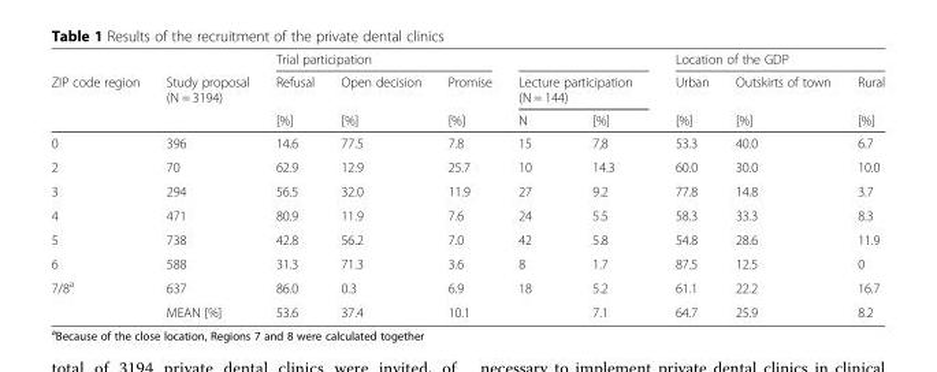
<table><thead><tr><td rowspan="3">ZIP code region</td><td rowspan="3">Study proposal (N = 3194)</td><td colspan="3">Trial participation</td><td></td><td></td><td colspan="3">Location of the GDP</td></tr><tr><td rowspan="2">Refusal [%]</td><td rowspan="2">Open decision [%]</td><td rowspan="2">Promise [%]</td><td colspan="2">Lecture participation (N = 144)</td><td rowspan="2">Urban [%]</td><td rowspan="2">Outskirts of town [%]</td><td rowspan="2">Rural [%]</td></tr><tr><td>N</td><td>[%]</td></tr></thead><tbody><tr><td>0</td><td>396</td><td>14.6</td><td>77.5</td><td>7.8</td><td>15</td><td>7,8</td><td>53.3</td><td>40.0</td><td>6.7</td></tr><tr><td>2</td><td>70</td><td>62.9</td><td>12.9</td><td>25.7</td><td>10</td><td>14.3</td><td>60.0</td><td>30.0</td><td>10.0</td></tr><tr><td>3</td><td>294</td><td>56.5</td><td>32.0</td><td>11.9</td><td>27</td><td>9.2</td><td>77.8</td><td>14.8</td><td>3.7</td></tr><tr><td>4</td><td>471</td><td>80.9</td><td>11.9</td><td>7.6</td><td>24</td><td>5.5</td><td>58.3</td><td>33.3</td><td>8.3</td></tr><tr><td>5</td><td>738</td><td>42.8</td><td>56.2</td><td>7.0</td><td>42</td><td>5.8</td><td>54.8</td><td>28.6</td><td>11.9</td></tr><tr><td>6</td><td>588</td><td>31.3</td><td>71.3</td><td>3.6</td><td>8</td><td>1.7</td><td>87.5</td><td>12.5</td><td>0</td></tr><tr><td rowspan="2">7/8<sup>a</sup></td><td>637</td><td>86.0</td><td>0.3</td><td>6.9</td><td>18</td><td>5.2</td><td>61.1</td><td>22.2</td><td>16.7</td></tr><tr><td>MEAN [%]</td><td>53.6</td><td>37.4</td><td>10.1</td><td></td><td>7.1</td><td>64.7</td><td>25.9</td><td>8.2</td></tr></tbody></table>